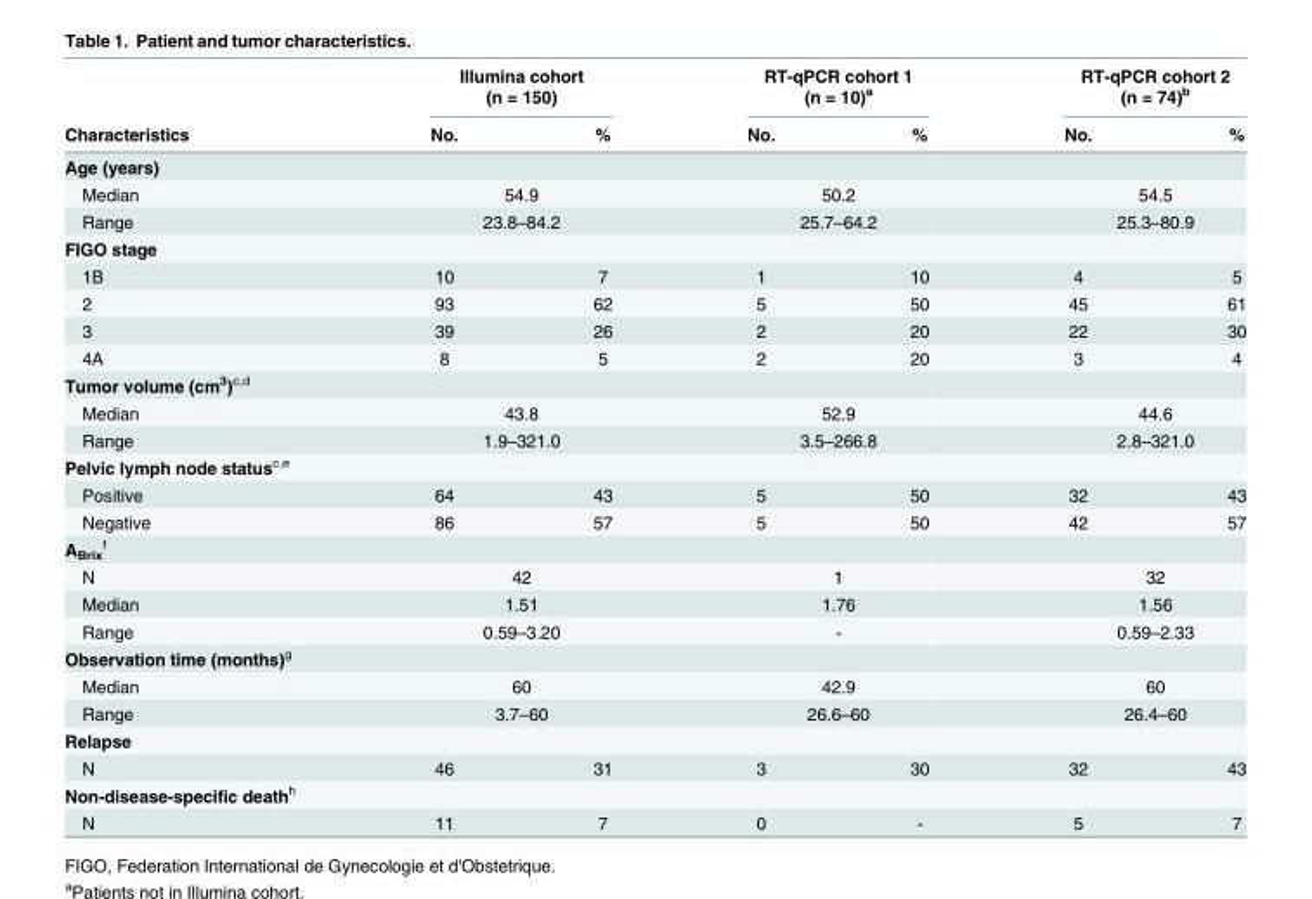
<table><thead><tr><td rowspan="2">Characteristics</td><td colspan="2">Illumina cohort (n = 150)</td><td colspan="2">RT-qPCR cohort 1 (n = 10)<sup>a</sup></td><td colspan="2">RT-qPCR cohort 2 (n = 74)<sup>b</sup></td></tr><tr><td>No.</td><td>%</td><td>No.</td><td>%</td><td>No.</td><td>%</td></tr></thead><tbody><tr><td colspan="7">Age (years)</td></tr><tr><td>Median</td><td colspan="2">54.9</td><td colspan="2">50.2</td><td colspan="2">54.5</td></tr><tr><td>Range</td><td colspan="2">23.8–84.2</td><td colspan="2">25.7–64.2</td><td colspan="2">25.3–80.9</td></tr><tr><td colspan="7">FIGO stage</td></tr><tr><td>1B</td><td>10</td><td>7</td><td>1</td><td>10</td><td>4</td><td>5</td></tr><tr><td>2</td><td>93</td><td>62</td><td>5</td><td>50</td><td>45</td><td>61</td></tr><tr><td>3</td><td>39</td><td>26</td><td>2</td><td>20</td><td>22</td><td>30</td></tr><tr><td>4A</td><td>8</td><td>5</td><td>2</td><td>20</td><td>3</td><td>4</td></tr><tr><td colspan="7">Tumor volume (cm<sup>3</sup>)<sup>c,d</sup></td></tr><tr><td>Median</td><td colspan="2">43.8</td><td colspan="2">52.9</td><td colspan="2">44.6</td></tr><tr><td>Range</td><td colspan="2">1.9–321.0</td><td colspan="2">3.5–266.8</td><td colspan="2">2.8–321.0</td></tr><tr><td colspan="7">Pelvic lymph node status<sup>c,e</sup></td></tr><tr><td>Positive</td><td>64</td><td>43</td><td>5</td><td>50</td><td>32</td><td>43</td></tr><tr><td>Negative</td><td>86</td><td>57</td><td>5</td><td>50</td><td>42</td><td>57</td></tr><tr><td colspan="7">A<sub>Brix</sub> <sup>f</sup></td></tr><tr><td>N</td><td colspan="2">42</td><td colspan="2">1</td><td colspan="2">32</td></tr><tr><td>Median</td><td colspan="2">1.51</td><td colspan="2">1.76</td><td colspan="2">1.56</td></tr><tr><td>Range</td><td colspan="2">0.59–3.20</td><td colspan="2">-</td><td colspan="2">0.59–2.33</td></tr><tr><td colspan="7">Observation time (months)<sup>g</sup></td></tr><tr><td>Median</td><td colspan="2">60</td><td colspan="2">42.9</td><td colspan="2">60</td></tr><tr><td>Range</td><td colspan="2">3.7–60</td><td colspan="2">26.6–60</td><td colspan="2">26.4–60</td></tr><tr><td colspan="7">Relapse</td></tr><tr><td>N</td><td>46</td><td>31</td><td>3</td><td>30</td><td>32</td><td>43</td></tr><tr><td colspan="7">Non-disease-specific death<sup>h</sup></td></tr><tr><td>N</td><td>11</td><td>7</td><td>0</td><td>-</td><td>5</td><td>7</td></tr></tbody></table>